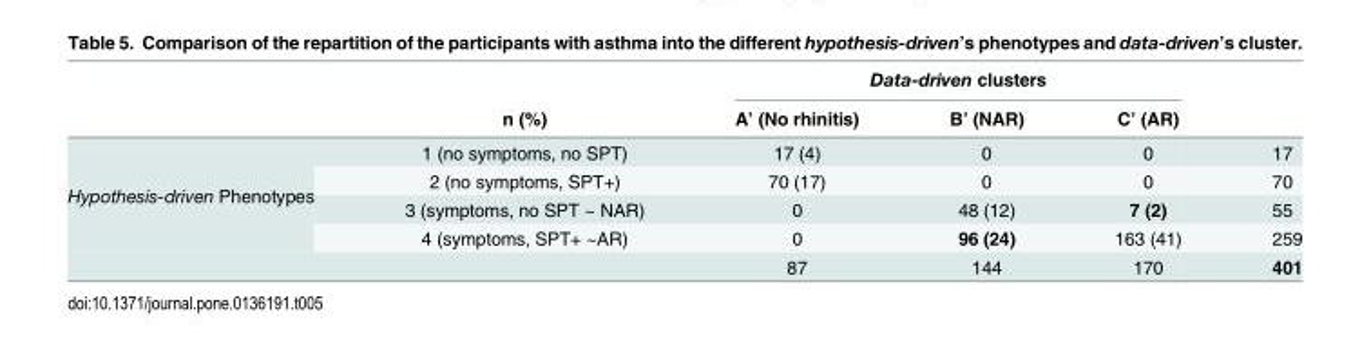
<table><thead><tr><td rowspan="2"></td><td rowspan="2">n (%)</td><td colspan="3">Data-driven clusters</td><td rowspan="2"></td></tr><tr><td>A’ (No rhinitis)</td><td>B’ (NAR)</td><td>C’ (AR)</td></tr></thead><tbody><tr><td rowspan="5">Hypothesis-driven Phenotypes</td><td>1 (no symptoms, no SPT)</td><td>17 (4)</td><td>0</td><td>0</td><td>17</td></tr><tr><td>2 (no symptoms, SPT+)</td><td>70 (17)</td><td>0</td><td>0</td><td>70</td></tr><tr><td>3 (symptoms, no SPT ~ NAR)</td><td>0</td><td>48 (12)</td><td>7 (2)</td><td>55</td></tr><tr><td>4 (symptoms, SPT+ ~AR)</td><td>0</td><td>96 (24)</td><td>163 (41)</td><td>259</td></tr><tr><td></td><td>87</td><td>144</td><td>170</td><td>401</td></tr></tbody></table>